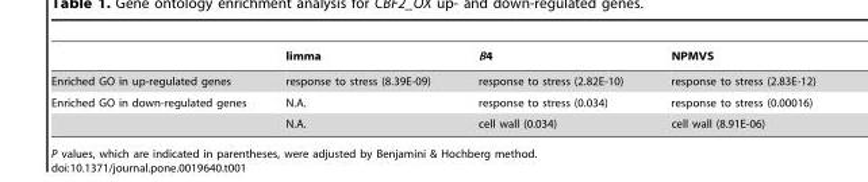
<table><thead><tr><td></td><td>limma</td><td>B4</td><td>NPMVS</td></tr></thead><tbody><tr><td>Enriched GO in up-regulated genes</td><td>response to stress (8.39E-09)</td><td>response to stress (2.82E-10)</td><td>response to stress (2.83E-12)</td></tr><tr><td rowspan="2">Enriched GO in down-regulated genes</td><td>N.A.</td><td>response to stress (0.034)</td><td>response to stress (0.00016)</td></tr><tr><td>N.A.</td><td>cell wall (0.034)</td><td>cell wall (8.91E-06)</td></tr></tbody></table>